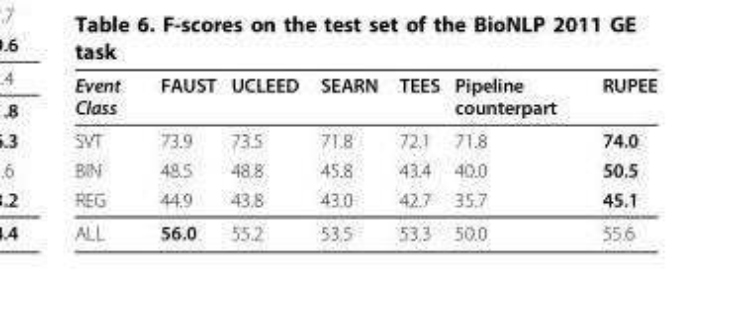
<table><thead><tr><td>Event Class</td><td>FAUST</td><td>UCLEED</td><td>SEARN</td><td>TEES</td><td>Pipeline counterpart</td><td>RUPEE</td></tr></thead><tbody><tr><td>SVT</td><td>73.9</td><td>73.5</td><td>71.8</td><td>72.1</td><td>71.8</td><td>74.0</td></tr><tr><td>BIN</td><td>48.5</td><td>48.8</td><td>45.8</td><td>43.4</td><td>40.0</td><td>50.5</td></tr><tr><td>REG</td><td>44.9</td><td>43.8</td><td>43.0</td><td>42.7</td><td>35.7</td><td>45.1</td></tr><tr><td>ALL</td><td>56.0</td><td>55.2</td><td>53.5</td><td>53.3</td><td>50.0</td><td>55.6</td></tr></tbody></table>